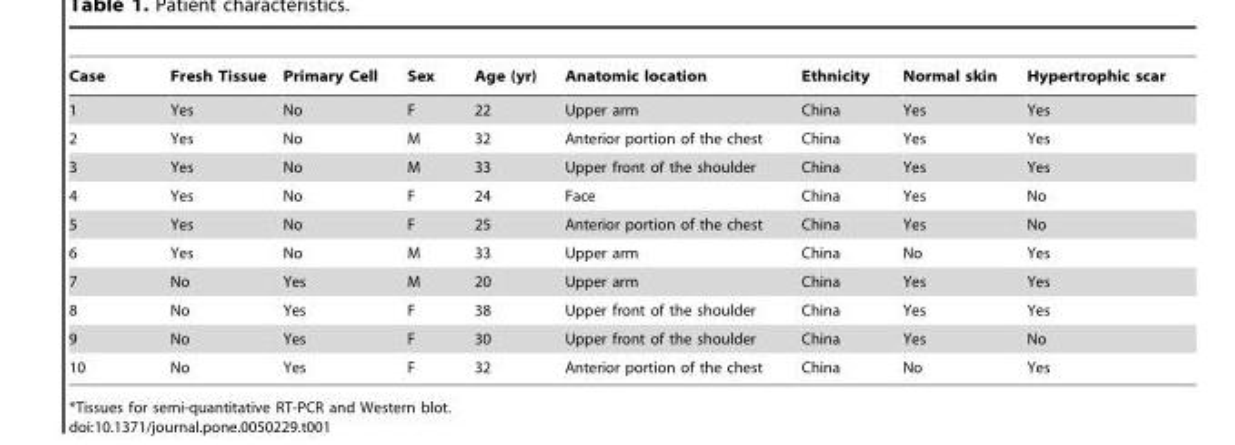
<table><thead><tr><td>Case</td><td>Fresh Tissue</td><td>Primary Cell</td><td>Sex</td><td>Age (yr)</td><td>Anatomic location</td><td>Ethnicity</td><td>Normal skin</td><td>Hypertrophic scar</td></tr></thead><tbody><tr><td>1</td><td>Yes</td><td>No</td><td>F</td><td>22</td><td>Upper arm</td><td>China</td><td>Yes</td><td>Yes</td></tr><tr><td>2</td><td>Yes</td><td>No</td><td>M</td><td>32</td><td>Anterior portion of the chest</td><td>China</td><td>Yes</td><td>Yes</td></tr><tr><td>3</td><td>Yes</td><td>No</td><td>M</td><td>33</td><td>Upper front of the shoulder</td><td>China</td><td>Yes</td><td>Yes</td></tr><tr><td>4</td><td>Yes</td><td>No</td><td>F</td><td>24</td><td>Face</td><td>China</td><td>Yes</td><td>No</td></tr><tr><td>5</td><td>Yes</td><td>No</td><td>F</td><td>25</td><td>Anterior portion of the chest</td><td>China</td><td>Yes</td><td>No</td></tr><tr><td>6</td><td>Yes</td><td>No</td><td>M</td><td>33</td><td>Upper arm</td><td>China</td><td>No</td><td>Yes</td></tr><tr><td>7</td><td>No</td><td>Yes</td><td>M</td><td>20</td><td>Upper arm</td><td>China</td><td>Yes</td><td>Yes</td></tr><tr><td>8</td><td>No</td><td>Yes</td><td>F</td><td>38</td><td>Upper front of the shoulder</td><td>China</td><td>Yes</td><td>Yes</td></tr><tr><td>9</td><td>No</td><td>Yes</td><td>F</td><td>30</td><td>Upper front of the shoulder</td><td>China</td><td>Yes</td><td>No</td></tr><tr><td>10</td><td>No</td><td>Yes</td><td>F</td><td>32</td><td>Anterior portion of the chest</td><td>China</td><td>No</td><td>Yes</td></tr></tbody></table>